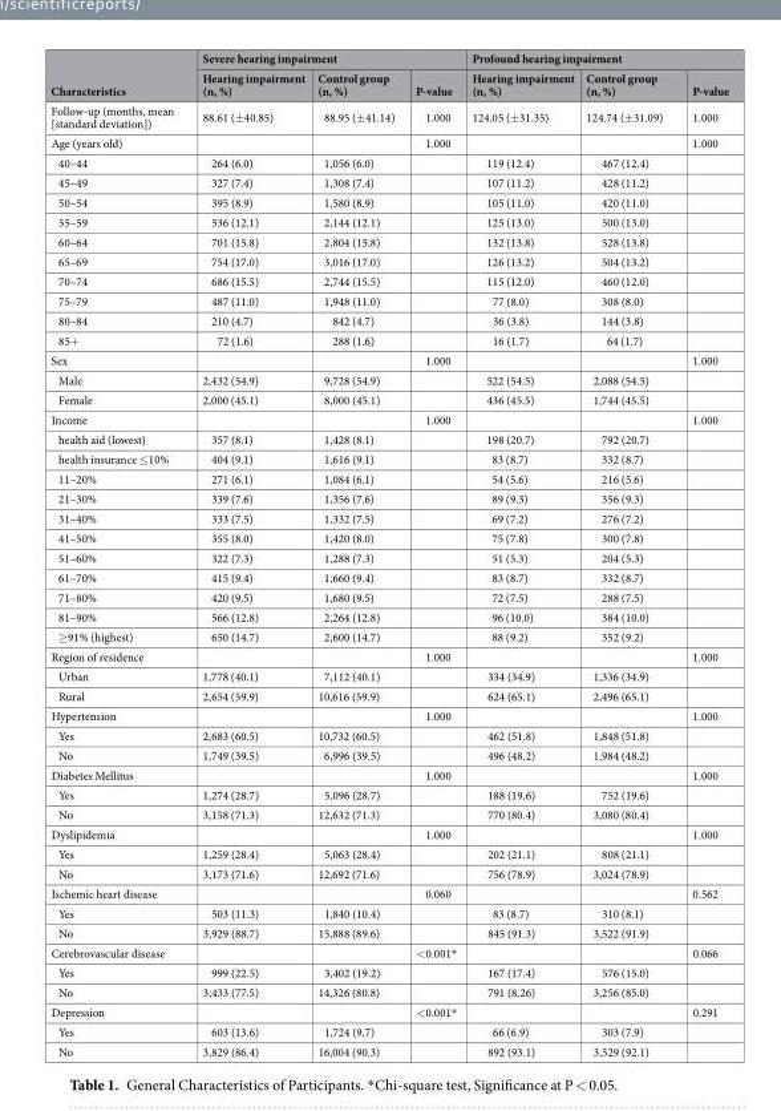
<table><thead><tr><td rowspan="2">Characteristics</td><td colspan="3">Severe hearing impairment</td><td colspan="3">Profound hearing impairment</td></tr><tr><td>Hearing impairment (n, %)</td><td>Control group (n, %)</td><td>P-value</td><td>Hearing impairment (n, %)</td><td>Control group (n, %)</td><td>P-value</td></tr></thead><tbody><tr><td>Follow-up (months, mean [standard deviation])</td><td>88.61 (±40.85)</td><td>88.95 (±41.14)</td><td>1.000</td><td>124.05 (±31.35)</td><td>124.74 (±31.09)</td><td>1.000</td></tr><tr><td>Age (years old)</td><td></td><td></td><td>1.000</td><td></td><td></td><td>1.000</td></tr><tr><td>40–44</td><td>264 (6.0)</td><td>1,056 (6.0)</td><td></td><td>119 (12.4)</td><td>467 (12.4)</td><td></td></tr><tr><td>45–49</td><td>327 (7.4)</td><td>1,308 (7.4)</td><td></td><td>107 (11.2)</td><td>428 (11.2)</td><td></td></tr><tr><td>50–54</td><td>395 (8.9)</td><td>1,580 (8.9)</td><td></td><td>105 (11.0)</td><td>420 (11.0)</td><td></td></tr><tr><td>55–59</td><td>536 (12.1)</td><td>2,144 (12.1)</td><td></td><td>125 (13.0)</td><td>500 (13.0)</td><td></td></tr><tr><td>60–64</td><td>701 (15.8)</td><td>2,804 (15.8)</td><td></td><td>132 (13.8)</td><td>528 (13.8)</td><td></td></tr><tr><td>65–69</td><td>754 (17.0)</td><td>3,016 (17.0)</td><td></td><td>126 (13.2)</td><td>504 (13.2)</td><td></td></tr><tr><td>70–74</td><td>686 (15.5)</td><td>2,744 (15.5)</td><td></td><td>115 (12.0)</td><td>460 (12.0)</td><td></td></tr><tr><td>75–79</td><td>487 (11.0)</td><td>1,948 (11.0)</td><td></td><td>77 (8.0)</td><td>308 (8.0)</td><td></td></tr><tr><td>80–84</td><td>210 (4.7)</td><td>842 (4.7)</td><td></td><td>36 (3.8)</td><td>144 (3.8)</td><td></td></tr><tr><td>85+</td><td>72 (1.6)</td><td>288 (1.6)</td><td></td><td>16 (1.7)</td><td>64 (1.7)</td><td></td></tr><tr><td>Sex</td><td></td><td></td><td>1.000</td><td></td><td></td><td>1.000</td></tr><tr><td>Male</td><td>2,432 (54.9)</td><td>9,728 (54.9)</td><td></td><td>522 (54.5)</td><td>2,088 (54.5)</td><td></td></tr><tr><td>Female</td><td>2,000 (45.1)</td><td>8,000 (45.1)</td><td></td><td>436 (45.5)</td><td>1,744 (45.5)</td><td></td></tr><tr><td>Income</td><td></td><td></td><td>1.000</td><td></td><td></td><td>1.000</td></tr><tr><td>health aid (lowest)</td><td>357 (8.1)</td><td>1,428 (8.1)</td><td></td><td>198 (20.7)</td><td>792 (20.7)</td><td></td></tr><tr><td>health insurance ≤10%</td><td>404 (9.1)</td><td>1,616 (9.1)</td><td></td><td>83 (8.7)</td><td>332 (8.7)</td><td></td></tr><tr><td>11–20%</td><td>271 (6.1)</td><td>1,084 (6.1)</td><td></td><td>54 (5.6)</td><td>216 (5.6)</td><td></td></tr><tr><td>21–30%</td><td>339 (7.6)</td><td>1,356 (7.6)</td><td></td><td>89 (9.3)</td><td>356 (9.3)</td><td></td></tr><tr><td>31–40%</td><td>333 (7.5)</td><td>1,332 (7.5)</td><td></td><td>69 (7.2)</td><td>276 (7.2)</td><td></td></tr><tr><td>41–50%</td><td>355 (8.0)</td><td>1,420 (8.0)</td><td></td><td>75 (7.8)</td><td>300 (7.8)</td><td></td></tr><tr><td>51–60%</td><td>322 (7.3)</td><td>1,288 (7.3)</td><td></td><td>51 (5.3)</td><td>204 (5.3)</td><td></td></tr><tr><td>61–70%</td><td>415 (9.4)</td><td>1,660 (9.4)</td><td></td><td>83 (8.7)</td><td>332 (8.7)</td><td></td></tr><tr><td>71–80%</td><td>420 (9.5)</td><td>1,680 (9.5)</td><td></td><td>72 (7.5)</td><td>288 (7.5)</td><td></td></tr><tr><td>81–90%</td><td>566 (12.8)</td><td>2,264 (12.8)</td><td></td><td>96 (10.0)</td><td>384 (10.0)</td><td></td></tr><tr><td>≥91% (highest)</td><td>650 (14.7)</td><td>2,600 (14.7)</td><td></td><td>88 (9.2)</td><td>352 (9.2)</td><td></td></tr><tr><td>Region of residence</td><td></td><td></td><td>1.000</td><td></td><td></td><td>1.000</td></tr><tr><td>Urban</td><td>1,778 (40.1)</td><td>7,112 (40.1)</td><td></td><td>334 (34.9)</td><td>1,336 (34.9)</td><td></td></tr><tr><td>Rural</td><td>2,654 (59.9)</td><td>10,616 (59.9)</td><td></td><td>624 (65.1)</td><td>2,496 (65.1)</td><td></td></tr><tr><td>Hypertension</td><td></td><td></td><td>1.000</td><td></td><td></td><td>1.000</td></tr><tr><td>Yes</td><td>2,683 (60.5)</td><td>10,732 (60.5)</td><td></td><td>462 (51.8)</td><td>1,848 (51.8)</td><td></td></tr><tr><td>No</td><td>1,749 (39.5)</td><td>6,996 (39.5)</td><td></td><td>496 (48.2)</td><td>1,984 (48.2)</td><td></td></tr><tr><td>Diabetes Mellitus</td><td></td><td></td><td>1.000</td><td></td><td></td><td>1.000</td></tr><tr><td>Yes</td><td>1,274 (28.7)</td><td>5,096 (28.7)</td><td></td><td>188 (19.6)</td><td>752 (19.6)</td><td></td></tr><tr><td>No</td><td>3,158 (71.3)</td><td>12,632 (71.3)</td><td></td><td>770 (80.4)</td><td>3,080 (80.4)</td><td></td></tr><tr><td>Dyslipidemia</td><td></td><td></td><td>1.000</td><td></td><td></td><td>1.000</td></tr><tr><td>Yes</td><td>1,259 (28.4)</td><td>5,063 (28.4)</td><td></td><td>202 (21.1)</td><td>808 (21.1)</td><td></td></tr><tr><td>No</td><td>3,173 (71.6)</td><td>12,692 (71.6)</td><td></td><td>756 (78.9)</td><td>3,024 (78.9)</td><td></td></tr><tr><td>Ischemic heart disease</td><td></td><td></td><td>0.060</td><td></td><td></td><td>0.562</td></tr><tr><td>Yes</td><td>503 (11.3)</td><td>1,840 (10.4)</td><td></td><td>83 (8.7)</td><td>310 (8.1)</td><td></td></tr><tr><td>No</td><td>3,929 (88.7)</td><td>15,888 (89.6)</td><td></td><td>845 (91.3)</td><td>3,522 (91.9)</td><td></td></tr><tr><td>Cerebrovascular disease</td><td></td><td></td><td>&lt;0.001*</td><td></td><td></td><td>0.066</td></tr><tr><td>Yes</td><td>999 (22.5)</td><td>3,402 (19.2)</td><td></td><td>167 (17.4)</td><td>576 (15.0)</td><td></td></tr><tr><td>No</td><td>3,433 (77.5)</td><td>14,326 (80.8)</td><td></td><td>791 (8.26)</td><td>3,256 (85.0)</td><td></td></tr><tr><td>Depression</td><td></td><td></td><td>&lt;0.001*</td><td></td><td></td><td>0.291</td></tr><tr><td>Yes</td><td>603 (13.6)</td><td>1,724 (9.7)</td><td></td><td>66 (6.9)</td><td>303 (7.9)</td><td></td></tr><tr><td>No</td><td>3,829 (86.4)</td><td>16,004 (90.3)</td><td></td><td>892 (93.1)</td><td>3,529 (92.1)</td><td></td></tr></tbody></table>